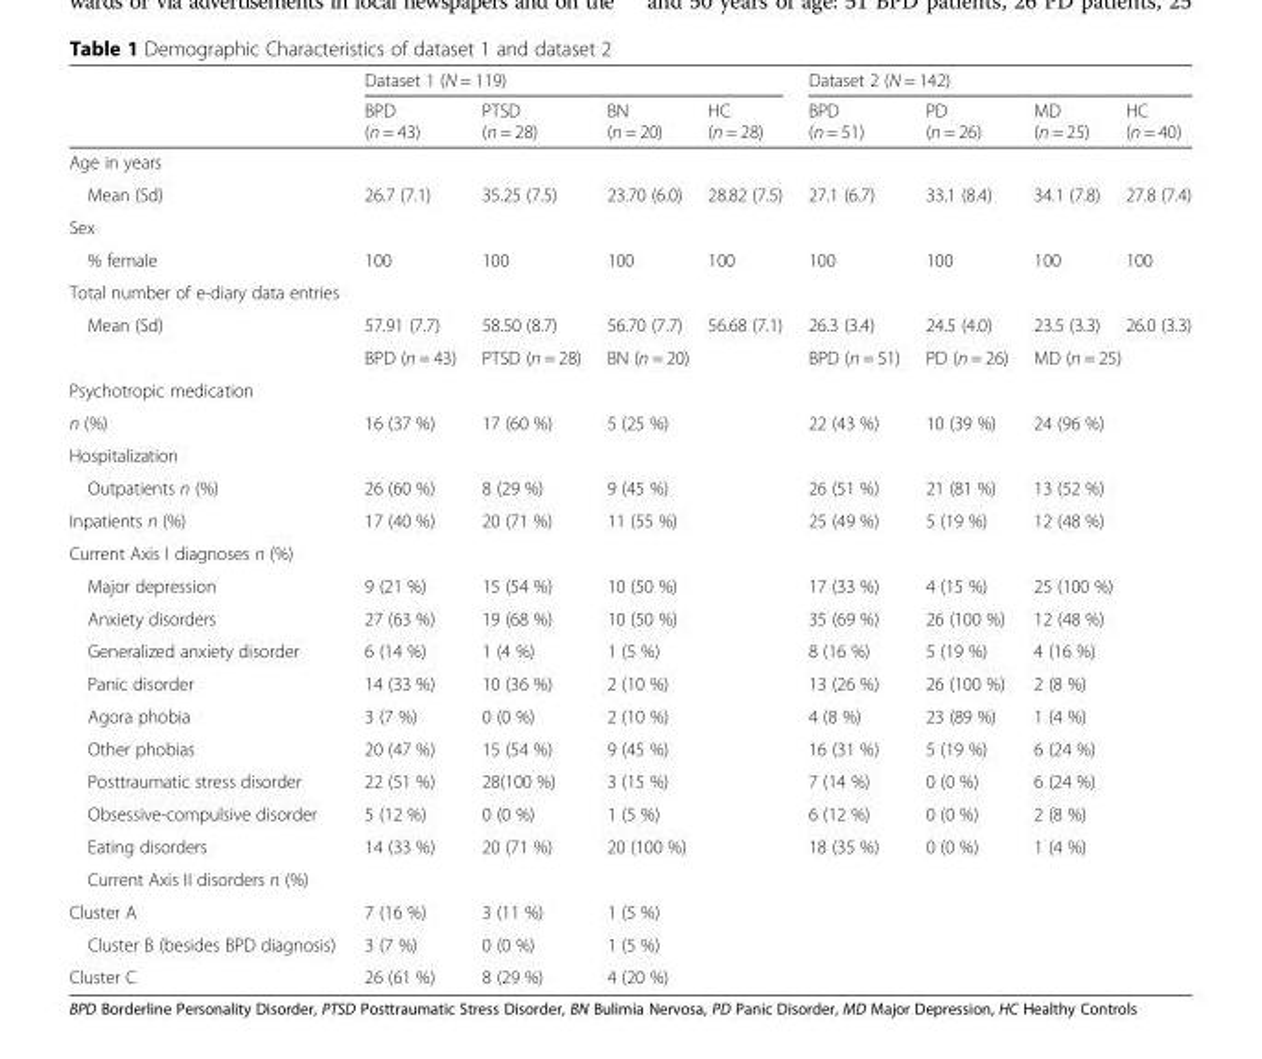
<table><thead><tr><td rowspan="2"></td><td colspan="4">Dataset 1 (N = 119)</td><td colspan="4">Dataset 2 (N = 142)</td></tr><tr><td>BPD (n = 43)</td><td>PTSD (n = 28)</td><td>BN (n = 20)</td><td>HC (n = 28)</td><td>BPD (n = 51)</td><td>PD (n = 26)</td><td>MD (n = 25)</td><td>HC (n = 40)</td></tr></thead><tbody><tr><td colspan="9">Age in years</td></tr><tr><td>Mean (Sd)</td><td>26.7 (7.1)</td><td>35.25 (7.5)</td><td>23.70 (6.0)</td><td>28.82 (7.5)</td><td>27.1 (6.7)</td><td>33.1 (8.4)</td><td>34.1 (7.8)</td><td>27.8 (7.4)</td></tr><tr><td colspan="9">Sex</td></tr><tr><td>% female</td><td>100</td><td>100</td><td>100</td><td>100</td><td>100</td><td>100</td><td>100</td><td>100</td></tr><tr><td colspan="9">Total number of e-diary data entries</td></tr><tr><td rowspan="2">Mean (Sd)</td><td>57.91 (7.7)</td><td>58.50 (8.7)</td><td>56.70 (7.7)</td><td>56.68 (7.1)</td><td>26.3 (3.4)</td><td>24.5 (4.0)</td><td>23.5 (3.3)</td><td>26.0 (3.3)</td></tr><tr><td>BPD (n = 43)</td><td>PTSD (n = 28)</td><td colspan="2">BN (n = 20)</td><td>BPD (n = 51)</td><td>PD (n = 26)</td><td colspan="2">MD (n = 25)</td></tr><tr><td colspan="9">Psychotropic medication</td></tr><tr><td>n (%)</td><td>16 (37 %)</td><td>17 (60 %)</td><td colspan="2">5 (25 %)</td><td>22 (43 %)</td><td>10 (39 %)</td><td colspan="2">24 (96 %)</td></tr><tr><td colspan="9">Hospitalization</td></tr><tr><td>Outpatients n (%)</td><td>26 (60 %)</td><td>8 (29 %)</td><td colspan="2">9 (45 %)</td><td>26 (51 %)</td><td>21 (81 %)</td><td colspan="2">13 (52 %)</td></tr><tr><td>Inpatients n (%)</td><td>17 (40 %)</td><td>20 (71 %)</td><td colspan="2">11 (55 %)</td><td>25 (49 %)</td><td>5 (19 %)</td><td colspan="2">12 (48 %)</td></tr><tr><td colspan="9">Current Axis I diagnoses n (%)</td></tr><tr><td>Major depression</td><td>9 (21 %)</td><td>15 (54 %)</td><td colspan="2">10 (50 %)</td><td>17 (33 %)</td><td>4 (15 %)</td><td colspan="2">25 (100 %)</td></tr><tr><td>Anxiety disorders</td><td>27 (63 %)</td><td>19 (68 %)</td><td colspan="2">10 (50 %)</td><td>35 (69 %)</td><td>26 (100 %)</td><td colspan="2">12 (48 %)</td></tr><tr><td>Generalized anxiety disorder</td><td>6 (14 %)</td><td>1 (4 %)</td><td colspan="2">1 (5 %)</td><td>8 (16 %)</td><td>5 (19 %)</td><td colspan="2">4 (16 %)</td></tr><tr><td>Panic disorder</td><td>14 (33 %)</td><td>10 (36 %)</td><td colspan="2">2 (10 %)</td><td>13 (26 %)</td><td>26 (100 %)</td><td colspan="2">2 (8 %)</td></tr><tr><td>Agora phobia</td><td>3 (7 %)</td><td>0 (0 %)</td><td colspan="2">2 (10 %)</td><td>4 (8 %)</td><td>23 (89 %)</td><td colspan="2">1 (4 %)</td></tr><tr><td>Other phobias</td><td>20 (47 %)</td><td>15 (54 %)</td><td colspan="2">9 (45 %)</td><td>16 (31 %)</td><td>5 (19 %)</td><td colspan="2">6 (24 %)</td></tr><tr><td>Posttraumatic stress disorder</td><td>22 (51 %)</td><td>28(100 %)</td><td colspan="2">3 (15 %)</td><td>7 (14 %)</td><td>0 (0 %)</td><td colspan="2">6 (24 %)</td></tr><tr><td>Obsessive-compulsive disorder</td><td>5 (12 %)</td><td>0 (0 %)</td><td colspan="2">1 (5 %)</td><td>6 (12 %)</td><td>0 (0 %)</td><td colspan="2">2 (8 %)</td></tr><tr><td>Eating disorders</td><td>14 (33 %)</td><td>20 (71 %)</td><td colspan="2">20 (100 %)</td><td>18 (35 %)</td><td>0 (0 %)</td><td colspan="2">1 (4 %)</td></tr><tr><td colspan="9">Current Axis II disorders n (%)</td></tr><tr><td>Cluster A</td><td>7 (16 %)</td><td>3 (11 %)</td><td colspan="2">1 (5 %)</td><td></td><td></td><td colspan="2"></td></tr><tr><td>Cluster B (besides BPD diagnosis)</td><td>3 (7 %)</td><td>0 (0 %)</td><td colspan="2">1 (5 %)</td><td></td><td></td><td colspan="2"></td></tr><tr><td>Cluster C</td><td>26 (61 %)</td><td>8 (29 %)</td><td colspan="2">4 (20 %)</td><td></td><td></td><td colspan="2"></td></tr></tbody></table>